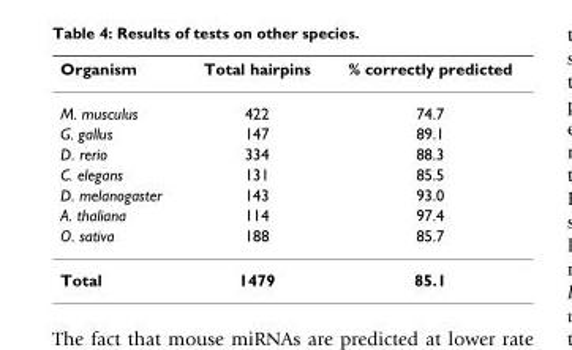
<table><thead><tr><td>Organism</td><td>Total hairpins</td><td>% correctly predicted</td></tr></thead><tbody><tr><td>M. musculus</td><td>422</td><td>74.7</td></tr><tr><td>G. gallus</td><td>147</td><td>89.1</td></tr><tr><td>D. rerio</td><td>334</td><td>88.3</td></tr><tr><td>C. elegans</td><td>131</td><td>85.5</td></tr><tr><td>D. melanogaster</td><td>143</td><td>93.0</td></tr><tr><td>A. thaliana</td><td>114</td><td>97.4</td></tr><tr><td>O. sativa</td><td>188</td><td>85.7</td></tr><tr><td>Total</td><td>1479</td><td>85.1</td></tr></tbody></table>